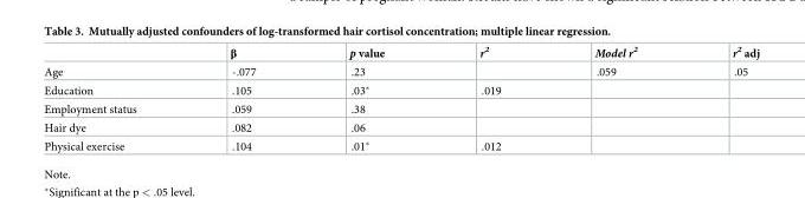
<table><thead><tr><td></td><td>β</td><td>p value</td><td>r<sup>2</sup></td><td>Model r<sup>2</sup></td><td>r<sup>2</sup> adj</td></tr></thead><tbody><tr><td>Age</td><td>-.077</td><td>.23</td><td></td><td>.059</td><td>.05</td></tr><tr><td>Education</td><td>.105</td><td>.03*</td><td>.019</td><td></td><td></td></tr><tr><td>Employment status</td><td>.059</td><td>.38</td><td></td><td></td><td></td></tr><tr><td>Hair dye</td><td>.082</td><td>.06</td><td></td><td></td><td></td></tr><tr><td>Physical exercise</td><td>.104</td><td>.01*</td><td>.012</td><td></td><td></td></tr></tbody></table>